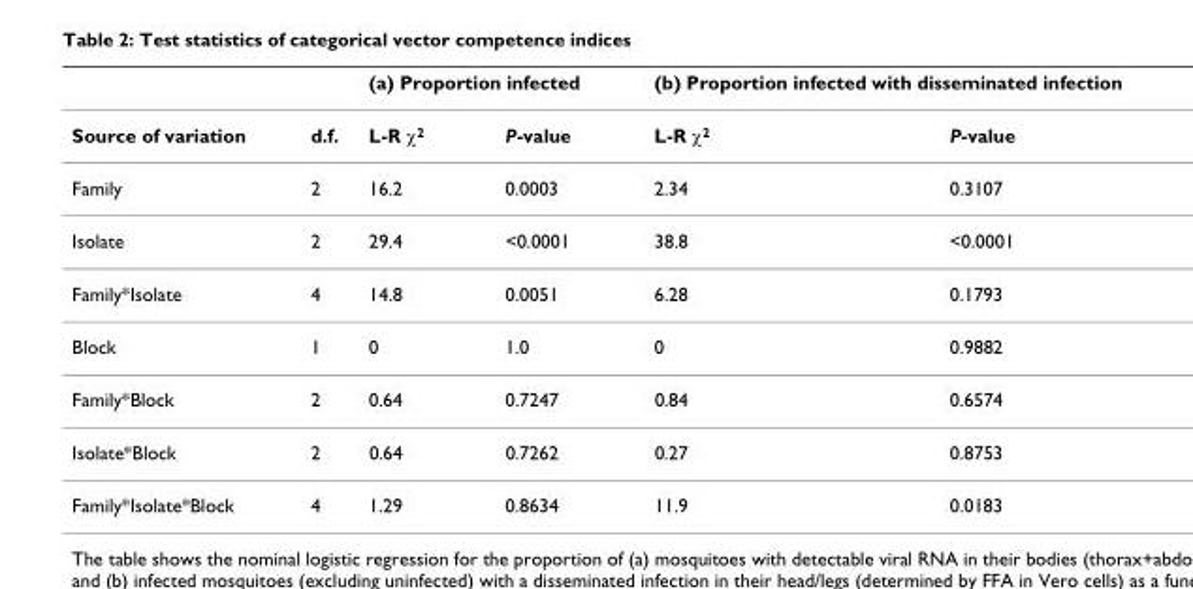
<table><thead><tr><td rowspan="2">Source of variation</td><td rowspan="2">d.f.</td><td colspan="2">(a) Proportion infected</td><td colspan="2">(b) Proportion infected with disseminated infection</td></tr><tr><td>L-R χ<sup>2</sup></td><td>P-value</td><td>L-R χ<sup>2</sup></td><td>P-value</td></tr></thead><tbody><tr><td>Family</td><td>2</td><td>16.2</td><td>0.0003</td><td>2.34</td><td>0.3107</td></tr><tr><td>Isolate</td><td>2</td><td>29.4</td><td>&lt;0.0001</td><td>38.8</td><td>&lt;0.0001</td></tr><tr><td>Family*Isolate</td><td>4</td><td>14.8</td><td>0.0051</td><td>6.28</td><td>0.1793</td></tr><tr><td>Block</td><td>1</td><td>0</td><td>1.0</td><td>0</td><td>0.9882</td></tr><tr><td>Family*Block</td><td>2</td><td>0.64</td><td>0.7247</td><td>0.84</td><td>0.6574</td></tr><tr><td>Isolate*Block</td><td>2</td><td>0.64</td><td>0.7262</td><td>0.27</td><td>0.8753</td></tr><tr><td>Family*Isolate*Block</td><td>4</td><td>1.29</td><td>0.8634</td><td>11.9</td><td>0.0183</td></tr></tbody></table>